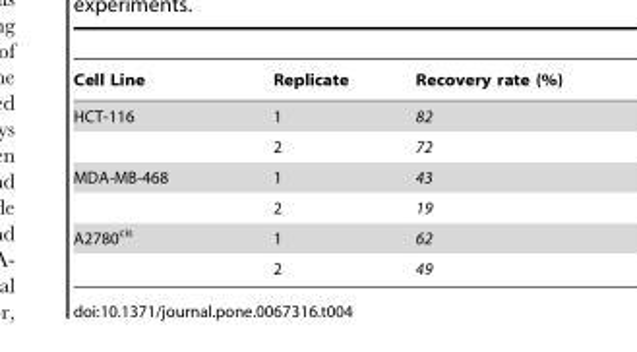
<table><thead><tr><td>Cell Line</td><td>Replicate</td><td>Recovery rate (%)</td></tr></thead><tbody><tr><td rowspan="2">HCT-116</td><td>1</td><td>82</td></tr><tr><td>2</td><td>72</td></tr><tr><td rowspan="2">MDA-MB-468</td><td>1</td><td>43</td></tr><tr><td>2</td><td>19</td></tr><tr><td rowspan="2">A2780<sup>cis</sup></td><td>1</td><td>62</td></tr><tr><td>2</td><td>49</td></tr></tbody></table>